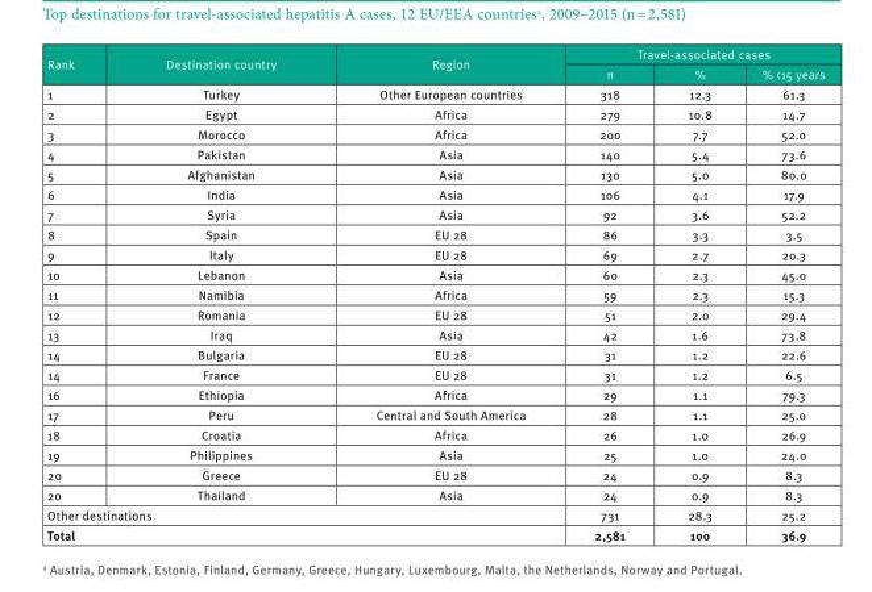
<table><thead><tr><td rowspan="2">Rank</td><td rowspan="2">Destination country</td><td rowspan="2">Region</td><td colspan="3">Travel-associated cases</td></tr><tr><td>n</td><td>%</td><td>% &lt;15 years</td></tr></thead><tbody><tr><td>1</td><td>Turkey</td><td>Other European countries</td><td>318</td><td>12.3</td><td>61.3</td></tr><tr><td>2</td><td>Egypt</td><td>Africa</td><td>279</td><td>10.8</td><td>14.7</td></tr><tr><td>3</td><td>Morocco</td><td>Africa</td><td>200</td><td>7.7</td><td>52.0</td></tr><tr><td>4</td><td>Pakistan</td><td>Asia</td><td>140</td><td>5.4</td><td>73.6</td></tr><tr><td>5</td><td>Afghanistan</td><td>Asia</td><td>130</td><td>5.0</td><td>80.0</td></tr><tr><td>6</td><td>India</td><td>Asia</td><td>106</td><td>4.1</td><td>17.9</td></tr><tr><td>7</td><td>Syria</td><td>Asia</td><td>92</td><td>3.6</td><td>52.2</td></tr><tr><td>8</td><td>Spain</td><td>EU 28</td><td>86</td><td>3.3</td><td>3.5</td></tr><tr><td>9</td><td>Italy</td><td>EU 28</td><td>69</td><td>2.7</td><td>20.3</td></tr><tr><td>10</td><td>Lebanon</td><td>Asia</td><td>60</td><td>2.3</td><td>45.0</td></tr><tr><td>11</td><td>Namibia</td><td>Africa</td><td>59</td><td>2.3</td><td>15.3</td></tr><tr><td>12</td><td>Romania</td><td>EU 28</td><td>51</td><td>2.0</td><td>29.4</td></tr><tr><td>13</td><td>Iraq</td><td>Asia</td><td>42</td><td>1.6</td><td>73.8</td></tr><tr><td>14</td><td>Bulgaria</td><td>EU 28</td><td>31</td><td>1.2</td><td>22.6</td></tr><tr><td>14</td><td>France</td><td>EU 28</td><td>31</td><td>1.2</td><td>6.5</td></tr><tr><td>16</td><td>Ethiopia</td><td>Africa</td><td>29</td><td>1.1</td><td>79.3</td></tr><tr><td>17</td><td>Peru</td><td>Central and South America</td><td>28</td><td>1.1</td><td>25.0</td></tr><tr><td>18</td><td>Croatia</td><td>Africa</td><td>26</td><td>1.0</td><td>26.9</td></tr><tr><td>19</td><td>Philippines</td><td>Asia</td><td>25</td><td>1.0</td><td>24.0</td></tr><tr><td>20</td><td>Greece</td><td>EU 28</td><td>24</td><td>0.9</td><td>8.3</td></tr><tr><td>20</td><td>Thailand</td><td>Asia</td><td>24</td><td>0.9</td><td>8.3</td></tr><tr><td colspan="3">Other destinations</td><td>731</td><td>28.3</td><td>25.2</td></tr><tr><td colspan="3">Total</td><td>2,581</td><td>100</td><td>36.9</td></tr></tbody></table>